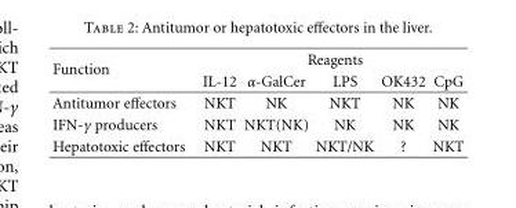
<table><thead><tr><td rowspan="2">Function</td><td colspan="5">Reagents</td></tr><tr><td>IL-12</td><td>α-GalCer</td><td>LPS</td><td>OK432</td><td>CpG</td></tr></thead><tbody><tr><td>Antitumor effectors</td><td>NKT</td><td>NK</td><td>NKT</td><td>NK</td><td>NK</td></tr><tr><td>IFN-γ producers</td><td>NKT</td><td>NKT(NK)</td><td>NK</td><td>NK</td><td>NK</td></tr><tr><td>Hepatotoxic effectors</td><td>NKT</td><td>NKT</td><td>NKT/NK</td><td>?</td><td>NKT</td></tr></tbody></table>